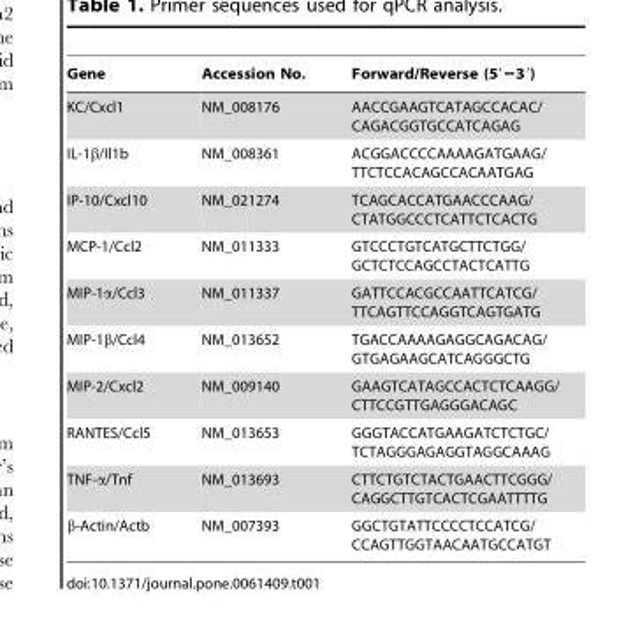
<table><thead><tr><td>Gene</td><td>Accession No.</td><td>Forward/Reverse (592 239)</td></tr></thead><tbody><tr><td>KC/Cxcl1</td><td>NM_008176</td><td>AACCGAAGTCATAGCCACAC/ CAGACGGTGCCATCAGAG</td></tr><tr><td>IL-1β/Il1b</td><td>NM_008361</td><td>ACGGACCCCAAAAGATGAAG/ TTCTCCACAGCCACAATGAG</td></tr><tr><td>IP-10/Cxcl10</td><td>NM_021274</td><td>TCAGCACCATGAACCCAAG/ CTATGGCCCTCATTCTCACTG</td></tr><tr><td>MCP-1/Ccl2</td><td>NM_011333</td><td>GTCCCTGTCATGCTTCTGG/ GCTCTCCAGCCTACTCATTG</td></tr><tr><td>MIP-1α/Ccl3</td><td>NM_011337</td><td>GATTCCACGCCAATTCATCG/ TTCAGTTCCAGGTCAGTGATG</td></tr><tr><td>MIP-1β/Ccl4</td><td>NM_013652</td><td>TGACCAAAAGAGGCAGACAG/ GTGAGAAGCATCAGGGCTG</td></tr><tr><td>MIP-2/Cxcl2</td><td>NM_009140</td><td>GAAGTCATAGCCACTCTCAAGG/ CTTCCGTTGAGGGACAGC</td></tr><tr><td>RANTES/Ccl5</td><td>NM_013653</td><td>GGGTACCATGAAGATCTCTGC/ TCTAGGGAGAGGTAGGCAAAG</td></tr><tr><td>TNF-α/Tnf</td><td>NM_013693</td><td>CTTCTGTCTACTGAACTTCGGG/ CAGGCTTGTCACTCGAATTTTG</td></tr><tr><td>β-Actin/Actb</td><td>NM_007393</td><td>GGCTGTATTCCCCTCCATCG/ CCAGTTGGTAACAATGCCATGT</td></tr></tbody></table>